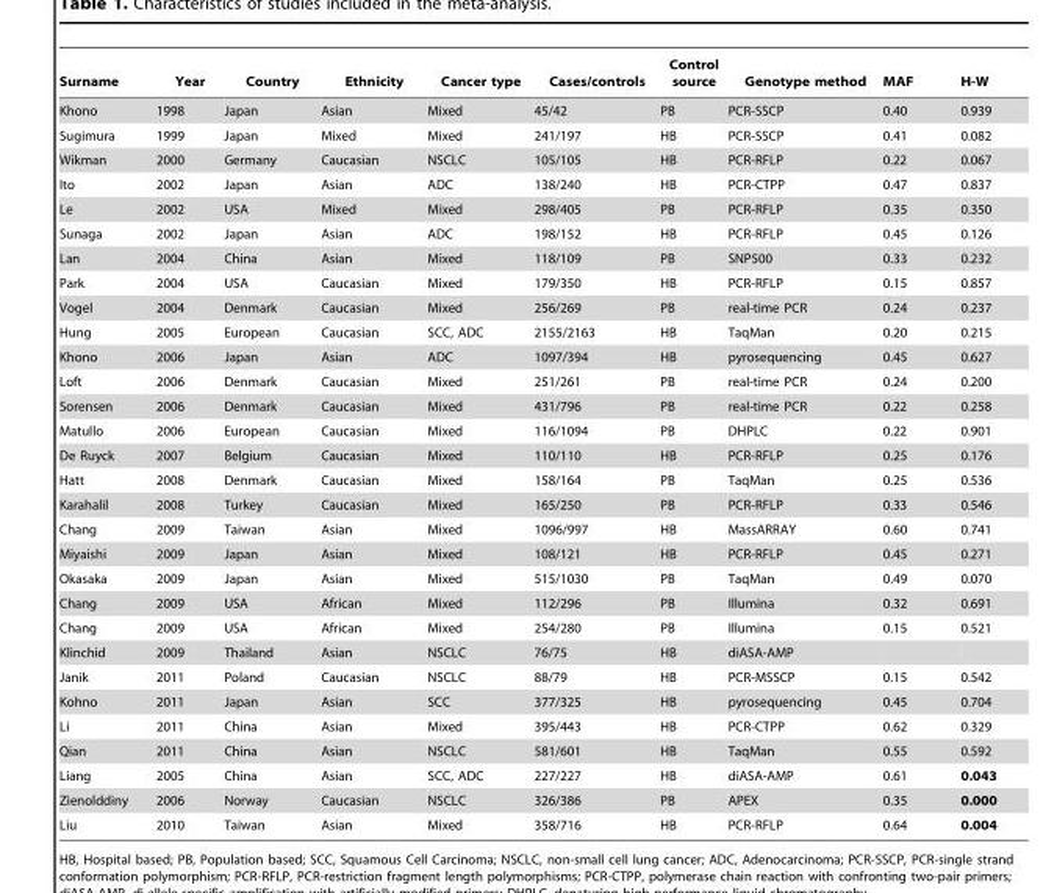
<table><thead><tr><td>Surname</td><td>Year</td><td>Country</td><td>Ethnicity</td><td>Cancer type</td><td>Cases/controls</td><td>Control source</td><td>Genotype method</td><td>MAF</td><td>H-W</td></tr></thead><tbody><tr><td>Khono</td><td>1998</td><td>Japan</td><td>Asian</td><td>Mixed</td><td>45/42</td><td>PB</td><td>PCR-SSCP</td><td>0.40</td><td>0.939</td></tr><tr><td>Sugimura</td><td>1999</td><td>Japan</td><td>Mixed</td><td>Mixed</td><td>241/197</td><td>HB</td><td>PCR-SSCP</td><td>0.41</td><td>0.082</td></tr><tr><td>Wikman</td><td>2000</td><td>Germany</td><td>Caucasian</td><td>NSCLC</td><td>105/105</td><td>HB</td><td>PCR-RFLP</td><td>0.22</td><td>0.067</td></tr><tr><td>Ito</td><td>2002</td><td>Japan</td><td>Asian</td><td>ADC</td><td>138/240</td><td>HB</td><td>PCR-CTPP</td><td>0.47</td><td>0.837</td></tr><tr><td>Le</td><td>2002</td><td>USA</td><td>Mixed</td><td>Mixed</td><td>298/405</td><td>PB</td><td>PCR-RFLP</td><td>0.35</td><td>0.350</td></tr><tr><td>Sunaga</td><td>2002</td><td>Japan</td><td>Asian</td><td>ADC</td><td>198/152</td><td>HB</td><td>PCR-RFLP</td><td>0.45</td><td>0.126</td></tr><tr><td>Lan</td><td>2004</td><td>China</td><td>Asian</td><td>Mixed</td><td>118/109</td><td>PB</td><td>SNP500</td><td>0.33</td><td>0.232</td></tr><tr><td>Park</td><td>2004</td><td>USA</td><td>Caucasian</td><td>Mixed</td><td>179/350</td><td>HB</td><td>PCR-RFLP</td><td>0.15</td><td>0.857</td></tr><tr><td>Vogel</td><td>2004</td><td>Denmark</td><td>Caucasian</td><td>Mixed</td><td>256/269</td><td>PB</td><td>real-time PCR</td><td>0.24</td><td>0.237</td></tr><tr><td>Hung</td><td>2005</td><td>European</td><td>Caucasian</td><td>SCC, ADC</td><td>2155/2163</td><td>HB</td><td>TaqMan</td><td>0.20</td><td>0.215</td></tr><tr><td>Khono</td><td>2006</td><td>Japan</td><td>Asian</td><td>ADC</td><td>1097/394</td><td>HB</td><td>pyrosequencing</td><td>0.45</td><td>0.627</td></tr><tr><td>Loft</td><td>2006</td><td>Denmark</td><td>Caucasian</td><td>Mixed</td><td>251/261</td><td>PB</td><td>real-time PCR</td><td>0.24</td><td>0.200</td></tr><tr><td>Sorensen</td><td>2006</td><td>Denmark</td><td>Caucasian</td><td>Mixed</td><td>431/796</td><td>PB</td><td>real-time PCR</td><td>0.22</td><td>0.258</td></tr><tr><td>Matullo</td><td>2006</td><td>European</td><td>Caucasian</td><td>Mixed</td><td>116/1094</td><td>PB</td><td>DHPLC</td><td>0.22</td><td>0.901</td></tr><tr><td>De Ruyck</td><td>2007</td><td>Belgium</td><td>Caucasian</td><td>Mixed</td><td>110/110</td><td>HB</td><td>PCR-RFLP</td><td>0.25</td><td>0.176</td></tr><tr><td>Hatt</td><td>2008</td><td>Denmark</td><td>Caucasian</td><td>Mixed</td><td>158/164</td><td>PB</td><td>TaqMan</td><td>0.25</td><td>0.536</td></tr><tr><td>Karahalil</td><td>2008</td><td>Turkey</td><td>Caucasian</td><td>Mixed</td><td>165/250</td><td>PB</td><td>PCR-RFLP</td><td>0.33</td><td>0.546</td></tr><tr><td>Chang</td><td>2009</td><td>Taiwan</td><td>Asian</td><td>Mixed</td><td>1096/997</td><td>HB</td><td>MassARRAY</td><td>0.60</td><td>0.741</td></tr><tr><td>Miyaishi</td><td>2009</td><td>Japan</td><td>Asian</td><td>Mixed</td><td>108/121</td><td>HB</td><td>PCR-RFLP</td><td>0.45</td><td>0.271</td></tr><tr><td>Okasaka</td><td>2009</td><td>Japan</td><td>Asian</td><td>Mixed</td><td>515/1030</td><td>PB</td><td>TaqMan</td><td>0.49</td><td>0.070</td></tr><tr><td>Chang</td><td>2009</td><td>USA</td><td>African</td><td>Mixed</td><td>112/296</td><td>PB</td><td>Illumina</td><td>0.32</td><td>0.691</td></tr><tr><td>Chang</td><td>2009</td><td>USA</td><td>African</td><td>Mixed</td><td>254/280</td><td>PB</td><td>Illumina</td><td>0.15</td><td>0.521</td></tr><tr><td>Klinchid</td><td>2009</td><td>Thailand</td><td>Asian</td><td>NSCLC</td><td>76/75</td><td>HB</td><td>diASA-AMP</td><td></td><td></td></tr><tr><td>Janik</td><td>2011</td><td>Poland</td><td>Caucasian</td><td>NSCLC</td><td>88/79</td><td>HB</td><td>PCR-MSSCP</td><td>0.15</td><td>0.542</td></tr><tr><td>Kohno</td><td>2011</td><td>Japan</td><td>Asian</td><td>SCC</td><td>377/325</td><td>HB</td><td>pyrosequencing</td><td>0.45</td><td>0.704</td></tr><tr><td>Li</td><td>2011</td><td>China</td><td>Asian</td><td>Mixed</td><td>395/443</td><td>HB</td><td>PCR-CTPP</td><td>0.62</td><td>0.329</td></tr><tr><td>Qian</td><td>2011</td><td>China</td><td>Asian</td><td>NSCLC</td><td>581/601</td><td>HB</td><td>TaqMan</td><td>0.55</td><td>0.592</td></tr><tr><td>Liang</td><td>2005</td><td>China</td><td>Asian</td><td>SCC, ADC</td><td>227/227</td><td>HB</td><td>diASA-AMP</td><td>0.61</td><td>0.043</td></tr><tr><td>Zienolddiny</td><td>2006</td><td>Norway</td><td>Caucasian</td><td>NSCLC</td><td>326/386</td><td>PB</td><td>APEX</td><td>0.35</td><td>0.000</td></tr><tr><td>Liu</td><td>2010</td><td>Taiwan</td><td>Asian</td><td>Mixed</td><td>358/716</td><td>HB</td><td>PCR-RFLP</td><td>0.64</td><td>0.004</td></tr></tbody></table>